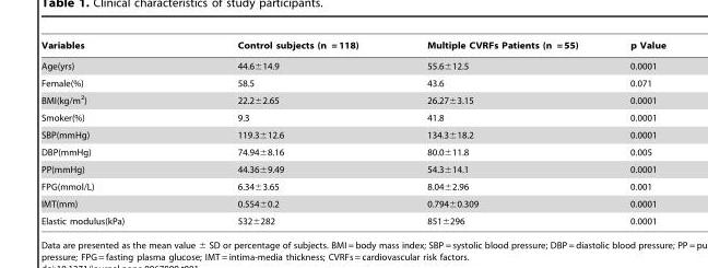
<table><thead><tr><td>Variables</td><td>Control subjects (n = 118)</td><td>Multiple CVRFs Patients (n = 55)</td><td>p Value</td></tr></thead><tbody><tr><td>Age(yrs)</td><td>44.6±14.9</td><td>55.6±12.5</td><td>0.0001</td></tr><tr><td>Female(%)</td><td>58.5</td><td>43.6</td><td>0.071</td></tr><tr><td>BMI(kg/m<sup>2</sup>)</td><td>22.2±2.65</td><td>26.27±3.15</td><td>0.0001</td></tr><tr><td>Smoker(%)</td><td>9.3</td><td>41.8</td><td>0.0001</td></tr><tr><td>SBP(mmHg)</td><td>119.3±12.6</td><td>134.3±18.2</td><td>0.0001</td></tr><tr><td>DBP(mmHg)</td><td>74.94±8.16</td><td>80.0±11.8</td><td>0.005</td></tr><tr><td>PP(mmHg)</td><td>44.36±9.49</td><td>54.3±14.1</td><td>0.0001</td></tr><tr><td>FPG(mmol/L)</td><td>6.34±3.65</td><td>8.04±2.96</td><td>0.001</td></tr><tr><td>IMT(mm)</td><td>0.554±0.2</td><td>0.794±0.309</td><td>0.0001</td></tr><tr><td>Elastic modulus(kPa)</td><td>532±282</td><td>851±296</td><td>0.0001</td></tr></tbody></table>